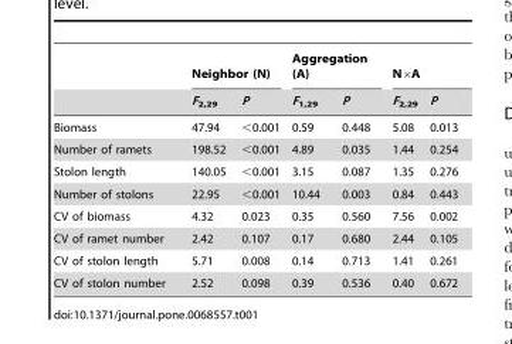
<table><thead><tr><td rowspan="2"></td><td colspan="2">Neighbor (N)</td><td colspan="2">Aggregation (A)</td><td colspan="2">N×A</td></tr><tr><td>F<sub>2,29</sub></td><td>P</td><td>F<sub>1,29</sub></td><td>P</td><td>F<sub>2,29</sub></td><td>P</td></tr></thead><tbody><tr><td>Biomass</td><td>47.94</td><td>&lt;0.001</td><td>0.59</td><td>0.448</td><td>5.08</td><td>0.013</td></tr><tr><td>Number of ramets</td><td>198.52</td><td>&lt;0.001</td><td>4.89</td><td>0.035</td><td>1.44</td><td>0.254</td></tr><tr><td>Stolon length</td><td>140.05</td><td>&lt;0.001</td><td>3.15</td><td>0.087</td><td>1.35</td><td>0.276</td></tr><tr><td>Number of stolons</td><td>22.95</td><td>&lt;0.001</td><td>10.44</td><td>0.003</td><td>0.84</td><td>0.443</td></tr><tr><td>CV of biomass</td><td>4.32</td><td>0.023</td><td>0.35</td><td>0.560</td><td>7.56</td><td>0.002</td></tr><tr><td>CV of ramet number</td><td>2.42</td><td>0.107</td><td>0.17</td><td>0.680</td><td>2.44</td><td>0.105</td></tr><tr><td>CV of stolon length</td><td>5.71</td><td>0.008</td><td>0.14</td><td>0.713</td><td>1.41</td><td>0.261</td></tr><tr><td>CV of stolon number</td><td>2.52</td><td>0.098</td><td>0.39</td><td>0.536</td><td>0.40</td><td>0.672</td></tr></tbody></table>